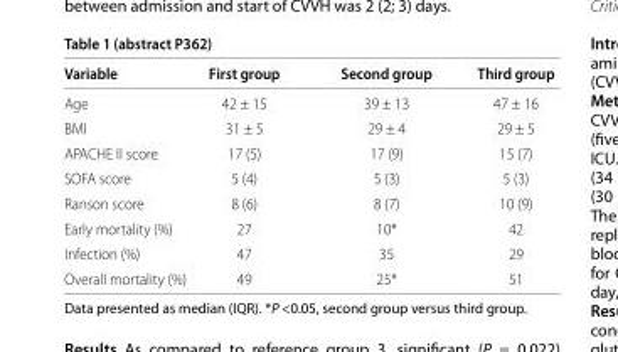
<table><thead><tr><td>Variable</td><td>First group</td><td>Second group</td><td>Third group</td></tr></thead><tbody><tr><td>Age</td><td>42 ± 15</td><td>39 ± 13</td><td>47 ± 16</td></tr><tr><td>BMI</td><td>31 ± 5</td><td>29 ± 4</td><td>29 ± 5</td></tr><tr><td>APACHE II score</td><td>17 (5)</td><td>17 (9)</td><td>15 (7)</td></tr><tr><td>SOFA score</td><td>5 (4)</td><td>5 (3)</td><td>5 (3)</td></tr><tr><td>Ranson score</td><td>8 (6)</td><td>8 (7)</td><td>10 (9)</td></tr><tr><td>Early mortality (%)</td><td>27</td><td>10*</td><td>42</td></tr><tr><td>Infection (%)</td><td>47</td><td>35</td><td>29</td></tr><tr><td>Overall mortality (%)</td><td>49</td><td>25*</td><td>51</td></tr></tbody></table>